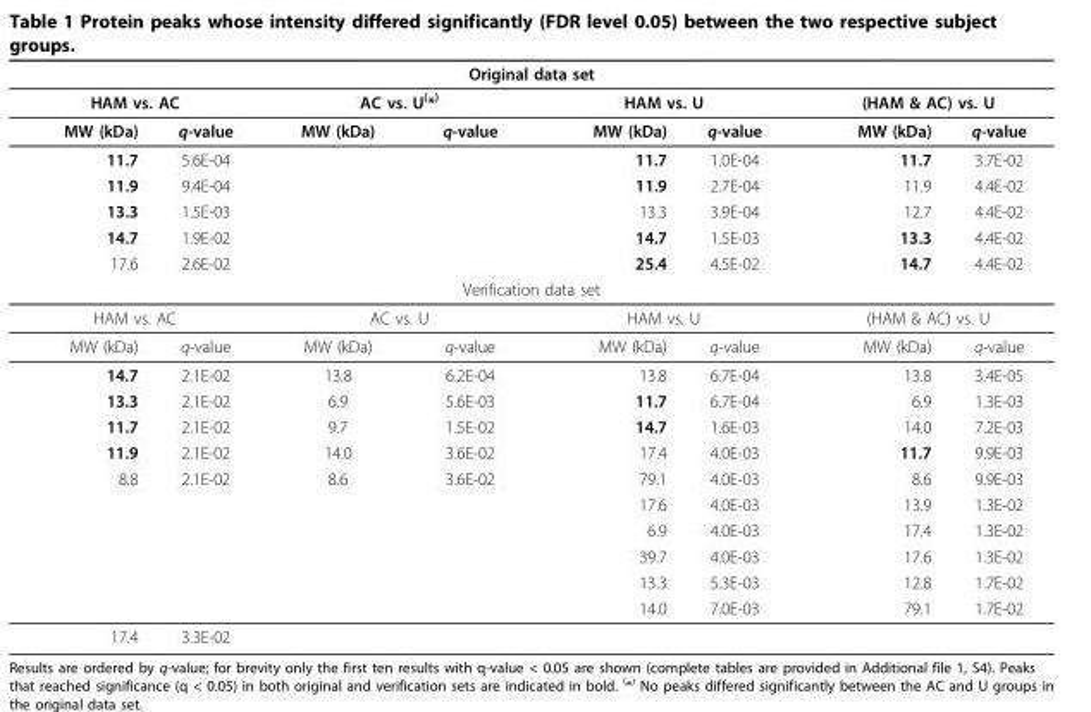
<table><thead><tr><td colspan="8">Original data set</td></tr><tr><td colspan="2">HAM vs. AC</td><td colspan="2">AC vs. U<sup>(</sup>*<sup>)</sup></td><td colspan="2">HAM vs. U</td><td colspan="2">(HAM &amp; AC) vs. U</td></tr><tr><td>MW (kDa)</td><td>q-value</td><td>MW (kDa)</td><td>q-value</td><td>MW (kDa)</td><td>q-value</td><td>MW (kDa)</td><td>q-value</td></tr></thead><tbody><tr><td>11.7</td><td>5.6E-04</td><td></td><td></td><td>11.7</td><td>1.0E-04</td><td>11.7</td><td>3.7E-02</td></tr><tr><td>11.9</td><td>9.4E-04</td><td></td><td></td><td>11.9</td><td>2.7E-04</td><td>11.9</td><td>4.4E-02</td></tr><tr><td>13.3</td><td>1.5E-03</td><td></td><td></td><td>13.3</td><td>3.9E-04</td><td>12.7</td><td>4.4E-02</td></tr><tr><td>14.7</td><td>1.9E-02</td><td></td><td></td><td>14.7</td><td>1.5E-03</td><td>13.3</td><td>4.4E-02</td></tr><tr><td>17.6</td><td>2.6E-02</td><td></td><td></td><td>25.4</td><td>4.5E-02</td><td>14.7</td><td>4.4E-02</td></tr><tr><td colspan="8">Verification data set</td></tr><tr><td colspan="2">HAM vs. AC</td><td colspan="2">AC vs. U</td><td colspan="2">HAM vs. U</td><td colspan="2">(HAM &amp; AC) vs. U</td></tr><tr><td>MW (kDa)</td><td>q-value</td><td>MW (kDa)</td><td>q-value</td><td>MW (kDa)</td><td>q-value</td><td>MW (kDa)</td><td>q-value</td></tr><tr><td>14.7</td><td>2.1E-02</td><td>13.8</td><td>6.2E-04</td><td>13.8</td><td>6.7E-04</td><td>13.8</td><td>3.4E-05</td></tr><tr><td>13.3</td><td>2.1E-02</td><td>6.9</td><td>5.6E-03</td><td>11.7</td><td>6.7E-04</td><td>6.9</td><td>1.3E-03</td></tr><tr><td>11.7</td><td>2.1E-02</td><td>9.7</td><td>1.5E-02</td><td>14.7</td><td>1.6E-03</td><td>14.0</td><td>7.2E-03</td></tr><tr><td>11.9</td><td>2.1E-02</td><td>14.0</td><td>3.6E-02</td><td>17.4</td><td>4.0E-03</td><td>11.7</td><td>9.9E-03</td></tr><tr><td rowspan="6">8.8</td><td>2.1E-02</td><td>8.6</td><td>3.6E-02</td><td>79.1</td><td>4.0E-03</td><td>8.6</td><td>9.9E-03</td></tr><tr><td></td><td></td><td></td><td>17.6</td><td>4.0E-03</td><td>13.9</td><td>1.3E-02</td></tr><tr><td></td><td></td><td></td><td>6.9</td><td>4.0E-03</td><td>17.4</td><td>1.3E-02</td></tr><tr><td></td><td></td><td></td><td>39.7</td><td>4.0E-03</td><td>17.6</td><td>1.3E-02</td></tr><tr><td></td><td></td><td></td><td>13.3</td><td>5.3E-03</td><td>12.8</td><td>1.7E-02</td></tr><tr><td></td><td></td><td></td><td>14.0</td><td>7.0E-03</td><td>79.1</td><td>1.7E-02</td></tr><tr><td>17.4</td><td>3.3E-02</td><td></td><td></td><td></td><td></td><td></td><td></td></tr></tbody></table>